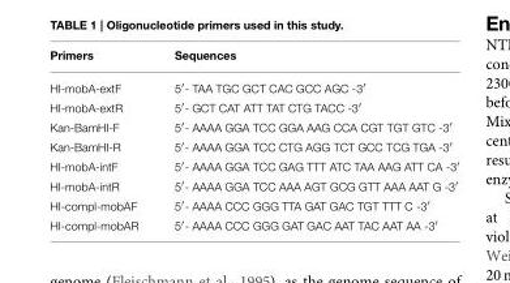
<table><thead><tr><td>Primers</td><td>Sequences</td></tr></thead><tbody><tr><td>HI-mobA-extF</td><td>5′- TAA TGC GCT CAC GCC AGC -3′</td></tr><tr><td>HI-mobA-extR</td><td>5′- GCT CAT ATT TAT CTG TACC -3′</td></tr><tr><td>Kan-BamHI-F</td><td>5′- AAAA GGA TCC GGA AAG CCA CGT TGT GTC -3′</td></tr><tr><td>Kan-BamHI-R</td><td>5′- AAAA GGA TCC CTG AGG TCT GCC TCG TGA -3′</td></tr><tr><td>HI-mobA-intF</td><td>5′- AAAA GGA TCC GAG TTT ATC TAA AAG ATT CA -3′</td></tr><tr><td>HI-mobA-intR</td><td>5′- AAAA GGA TCC AAA AGT GCG GTT AAA AAT G -3′</td></tr><tr><td>HI-compl-mobAF</td><td>5′- AAAA CCC GGG TTA GAT GAC TGT TTT C -3′</td></tr><tr><td>HI-compl-mobAR</td><td>5′- AAAA CCC GGG GAT GAC AAT TAC AAT AA -3′</td></tr></tbody></table>